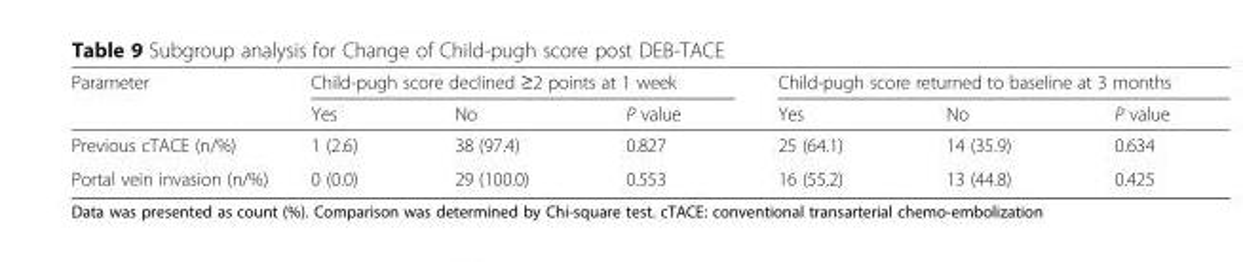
<table><thead><tr><td rowspan="2">Parameter</td><td colspan="3">Child-pugh score declined ≥2 points at 1 week</td><td colspan="3">Child-pugh score returned to baseline at 3 months</td></tr><tr><td>Yes</td><td>No</td><td>P value</td><td>Yes</td><td>No</td><td>P value</td></tr></thead><tbody><tr><td>Previous cTACE (n/%)</td><td>1 (2.6)</td><td>38 (97.4)</td><td>0.827</td><td>25 (64.1)</td><td>14 (35.9)</td><td>0.634</td></tr><tr><td>Portal vein invasion (n/%)</td><td>0 (0.0)</td><td>29 (100.0)</td><td>0.553</td><td>16 (55.2)</td><td>13 (44.8)</td><td>0.425</td></tr></tbody></table>